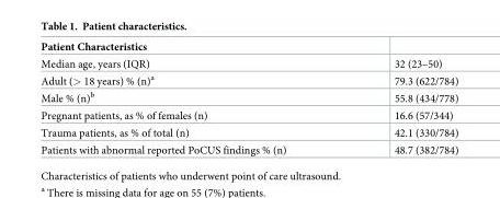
<table><thead><tr><td>Patient Characteristics</td><td></td></tr></thead><tbody><tr><td>Median age, years (IQR)</td><td>32 (23–50)</td></tr><tr><td>Adult (&gt; 18 years) % (n)<sup>a</sup></td><td>79.3 (622/784)</td></tr><tr><td>Male % (n)<sup>b</sup></td><td>55.8 (434/778)</td></tr><tr><td>Pregnant patients, as % of females (n)</td><td>16.6 (57/344)</td></tr><tr><td>Trauma patients, as % of total (n)</td><td>42.1 (330/784)</td></tr><tr><td>Patients with abnormal reported PoCUS findings % (n)</td><td>48.7 (382/784)</td></tr></tbody></table>